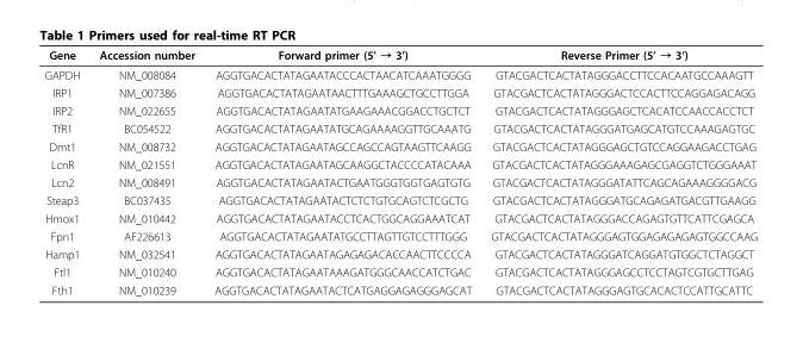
<table><thead><tr><td>Gene</td><td>Accession number</td><td>Forward primer (5’ → 3’)</td><td>Reverse Primer (5’ → 3’)</td></tr></thead><tbody><tr><td>GAPDH</td><td>NM_008084</td><td>AGGTGACACTATAGAATACCCACTAACATCAAATGGGG</td><td>GTACGACTCACTATAGGGACCTTCCACAATGCCAAAGTT</td></tr><tr><td>IRP1</td><td>NM_007386</td><td>AGGTGACACTATAGAATAACTTTGAAAGCTGCCTTGGA</td><td>GTACGACTCACTATAGGGACTCCACTTCCAGGAGACAGG</td></tr><tr><td>IRP2</td><td>NM_022655</td><td>AGGTGACACTATAGAATATGAAGAAACGGACCTGCTCT</td><td>GTACGACTCACTATAGGGAGCTCACATCCAACCACCTCT</td></tr><tr><td>TfR1</td><td>BC054522</td><td>AGGTGACACTATAGAATATGCAGAAAAGGTTGCAAATG</td><td>GTACGACTCACTATAGGGATGAGCATGTCCAAAGAGTGC</td></tr><tr><td>Dmt1</td><td>NM_008732</td><td>AGGTGACACTATAGAATAGCCAGCCAGTAAGTTCAAGG</td><td>GTACGACTCACTATAGGGAGCTGTCCAGGAAGACCTGAG</td></tr><tr><td>LcnR</td><td>NM_021551</td><td>AGGTGACACTATAGAATAGCAAGGCTACCCCATACAAA</td><td>GTACGACTCACTATAGGGAAAGAGCGAGGTCTGGGAAAT</td></tr><tr><td>Lcn2</td><td>NM_008491</td><td>AGGTGACACTATAGAATACTGAATGGGTGGTGAGTGTG</td><td>GTACGACTCACTATAGGGATATTCAGCAGAAAGGGGACG</td></tr><tr><td>Steap3</td><td>BC037435</td><td>AGGTGACACTATAGAATACTCTCTGTGCAGTCTCGCTG</td><td>GTACGACTCACTATAGGGATGCAGAGATGACGTTGAAGG</td></tr><tr><td>Hmox1</td><td>NM_010442</td><td>AGGTGACACTATAGAATACCTCACTGGCAGGAAATCAT</td><td>GTACGACTCACTATAGGGACCAGAGTGTTCATTCGAGCA</td></tr><tr><td>Fpn1</td><td>AF226613</td><td>AGGTGACACTATAGAATATGCCTTAGTTGTCCTTTGGG</td><td>GTACGACTCACTATAGGGAGTGGAGAGAGAGTGGCCAAG</td></tr><tr><td>Hamp1</td><td>NM_032541</td><td>AGGTGACACTATAGAATAGAGAGACACCAACTTCCCCA</td><td>GTACGACTCACTATAGGGATCAGGATGTGGCTCTAGGCT</td></tr><tr><td>Ftl1</td><td>NM_010240</td><td>AGGTGACACTATAGAATAAAGATGGGCAACCATCTGAC</td><td>GTACGACTCACTATAGGGAGCCTCCTAGTCGTGCTTGAG</td></tr><tr><td>Fth1</td><td>NM_010239</td><td>AGGTGACACTATAGAATACTCATGAGGAGAGGGAGCAT</td><td>GTACGACTCACTATAGGGAGTGCACACTCCATTGCATTC</td></tr></tbody></table>